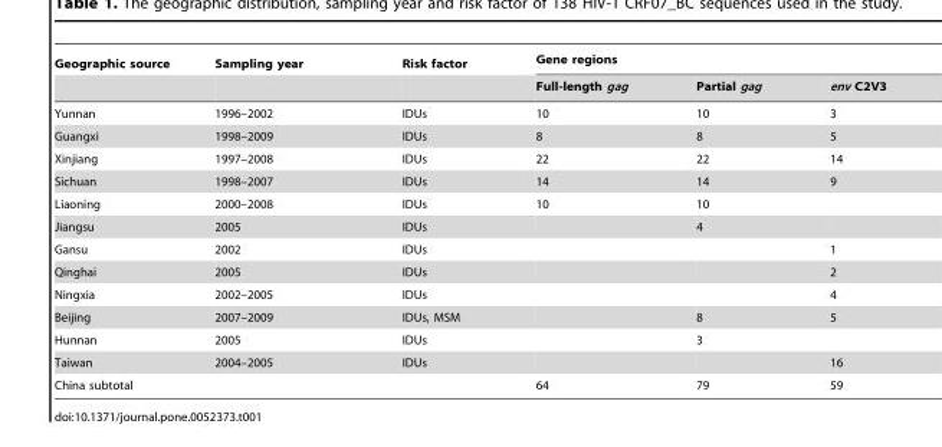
<table><thead><tr><td rowspan="2">Geographic source</td><td rowspan="2">Sampling year</td><td rowspan="2">Risk factor</td><td colspan="3">Gene regions</td></tr><tr><td>Full-length gag</td><td>Partial gag</td><td>env C2V3</td></tr></thead><tbody><tr><td>Yunnan</td><td>1996–2002</td><td>IDUs</td><td>10</td><td>10</td><td>3</td></tr><tr><td>Guangxi</td><td>1998–2009</td><td>IDUs</td><td>8</td><td>8</td><td>5</td></tr><tr><td>Xinjiang</td><td>1997–2008</td><td>IDUs</td><td>22</td><td>22</td><td>14</td></tr><tr><td>Sichuan</td><td>1998–2007</td><td>IDUs</td><td>14</td><td>14</td><td>9</td></tr><tr><td>Liaoning</td><td>2000–2008</td><td>IDUs</td><td>10</td><td>10</td><td></td></tr><tr><td>Jiangsu</td><td>2005</td><td>IDUs</td><td></td><td>4</td><td></td></tr><tr><td>Gansu</td><td>2002</td><td>IDUs</td><td></td><td></td><td>1</td></tr><tr><td>Qinghai</td><td>2005</td><td>IDUs</td><td></td><td></td><td>2</td></tr><tr><td>Ningxia</td><td>2002–2005</td><td>IDUs</td><td></td><td></td><td>4</td></tr><tr><td>Beijing</td><td>2007–2009</td><td>IDUs, MSM</td><td></td><td>8</td><td>5</td></tr><tr><td>Hunnan</td><td>2005</td><td>IDUs</td><td></td><td>3</td><td></td></tr><tr><td>Taiwan</td><td>2004–2005</td><td>IDUs</td><td></td><td></td><td>16</td></tr><tr><td>China subtotal</td><td></td><td></td><td>64</td><td>79</td><td>59</td></tr></tbody></table>